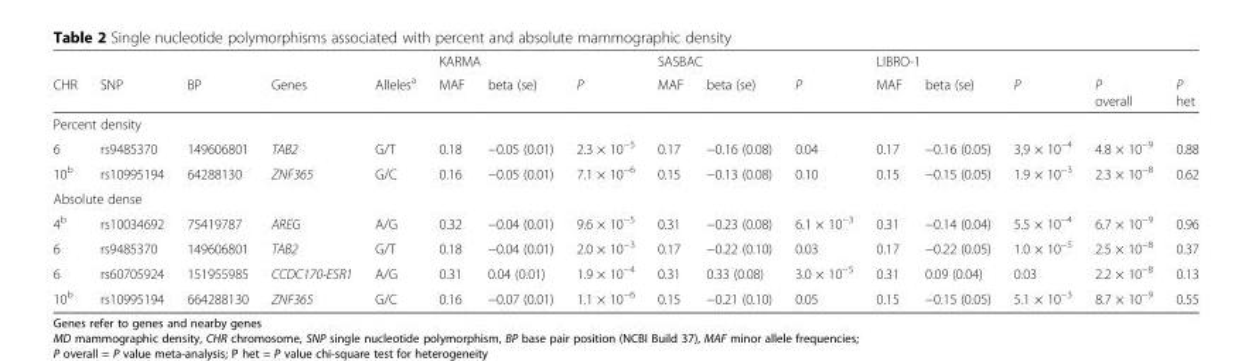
<table><thead><tr><td rowspan="2">CHR</td><td rowspan="2">SNP</td><td rowspan="2">BP</td><td rowspan="2">Genes</td><td rowspan="2">Alleles<sup>a</sup></td><td colspan="3">KARMA</td><td colspan="3">SASBAC</td><td colspan="3">LIBRO-1</td><td rowspan="2">P overall</td><td rowspan="2">P het</td></tr><tr><td>MAF</td><td>beta (se)</td><td>P</td><td>MAF</td><td>beta (se)</td><td>P</td><td>MAF</td><td>beta (se)</td><td>P</td></tr></thead><tbody><tr><td colspan="16">Percent density</td></tr><tr><td>6</td><td>rs9485370</td><td>149606801</td><td>TAB2</td><td>G/T</td><td>0.18</td><td>−0.05 (0.01)</td><td>2.3 × 10<sup>−5</sup></td><td>0.17</td><td>−0.16 (0.08)</td><td>0.04</td><td>0.17</td><td>−0.16 (0.05)</td><td>3,9 × 10<sup>−4</sup></td><td>4.8 × 10<sup>−9</sup></td><td>0.88</td></tr><tr><td>10<sup>b</sup></td><td>rs10995194</td><td>64288130</td><td>ZNF365</td><td>G/C</td><td>0.16</td><td>−0.05 (0.01)</td><td>7.1 × 10<sup>−6</sup></td><td>0.15</td><td>−0.13 (0.08)</td><td>0.10</td><td>0.15</td><td>−0.15 (0.05)</td><td>1.9 × 10<sup>−3</sup></td><td>2.3 × 10<sup>−8</sup></td><td>0.62</td></tr><tr><td colspan="16">Absolute dense</td></tr><tr><td>4<sup>b</sup></td><td>rs10034692</td><td>75419787</td><td>AREG</td><td>A/G</td><td>0.32</td><td>−0.04 (0.01)</td><td>9.6 × 10<sup>−5</sup></td><td>0.31</td><td>−0.23 (0.08)</td><td>6.1 × 10<sup>−3</sup></td><td>0.31</td><td>−0.14 (0.04)</td><td>5.5 × 10<sup>−4</sup></td><td>6.7 × 10<sup>−9</sup></td><td>0.96</td></tr><tr><td>6</td><td>rs9485370</td><td>149606801</td><td>TAB2</td><td>G/T</td><td>0.18</td><td>−0.04 (0.01)</td><td>2.0 × 10<sup>−3</sup></td><td>0.17</td><td>−0.22 (0.10)</td><td>0.03</td><td>0.17</td><td>−0.22 (0.05)</td><td>1.0 × 10<sup>−5</sup></td><td>2.5 × 10<sup>−8</sup></td><td>0.37</td></tr><tr><td>6</td><td>rs60705924</td><td>151955985</td><td>CCDC170-ESR1</td><td>A/G</td><td>0.31</td><td>0.04 (0.01)</td><td>1.9 × 10<sup>−4</sup></td><td>0.31</td><td>0.33 (0.08)</td><td>3.0 × 10<sup>−5</sup></td><td>0.31</td><td>0.09 (0.04)</td><td>0.03</td><td>2.2 × 10<sup>−8</sup></td><td>0.13</td></tr><tr><td>10<sup>b</sup></td><td>rs10995194</td><td>664288130</td><td>ZNF365</td><td>G/C</td><td>0.16</td><td>−0.07 (0.01)</td><td>1.1 × 10<sup>−6</sup></td><td>0.15</td><td>−0.21 (0.10)</td><td>0.05</td><td>0.15</td><td>−0.15 (0.05)</td><td>5.1 × 10<sup>−3</sup></td><td>8.7 × 10<sup>−9</sup></td><td>0.55</td></tr></tbody></table>